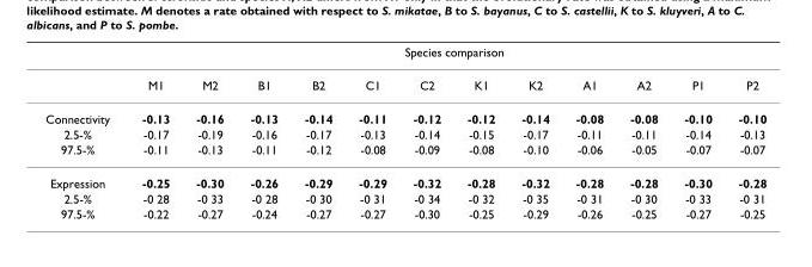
<table><thead><tr><td rowspan="2"></td><td colspan="12">Species comparison</td></tr><tr><td>M1</td><td>M2</td><td>B1</td><td>B2</td><td>C1</td><td>C2</td><td>K1</td><td>K2</td><td>A1</td><td>A2</td><td>P1</td><td>P2</td></tr></thead><tbody><tr><td>Connectivity</td><td>-0.13</td><td>-0.16</td><td>-0.13</td><td>-0.14</td><td>-0.11</td><td>-0.12</td><td>-0.12</td><td>-0.14</td><td>-0.08</td><td>-0.08</td><td>-0.10</td><td>-0.10</td></tr><tr><td>2.5-%</td><td>-0.17</td><td>-0.19</td><td>-0.16</td><td>-0.17</td><td>-0.13</td><td>-0.14</td><td>-0.15</td><td>-0.17</td><td>-0.11</td><td>-0.11</td><td>-0.14</td><td>-0.13</td></tr><tr><td>97.5-%</td><td>-0.11</td><td>-0.13</td><td>-0.11</td><td>-0.12</td><td>-0.08</td><td>-0.09</td><td>-0.08</td><td>-0.10</td><td>-0.06</td><td>-0.05</td><td>-0.07</td><td>-0.07</td></tr><tr><td>Expression</td><td>-0.25</td><td>-0.30</td><td>-0.26</td><td>-0.29</td><td>-0.29</td><td>-0.32</td><td>-0.28</td><td>-0.32</td><td>-0.28</td><td>-0.28</td><td>-0.30</td><td>-0.28</td></tr><tr><td>2.5-%</td><td>-0 28</td><td>-0 33</td><td>-0 28</td><td>-0 30</td><td>-0 31</td><td>-0 34</td><td>-0 32</td><td>-0 35</td><td>-0 31</td><td>-0 30</td><td>-0 33</td><td>-0 31</td></tr><tr><td>97.5-%</td><td>-0.22</td><td>-0.27</td><td>-0.24</td><td>-0.27</td><td>-0.27</td><td>-0.30</td><td>-0.25</td><td>-0.29</td><td>-0.26</td><td>-0.25</td><td>-0.27</td><td>-0.25</td></tr></tbody></table>